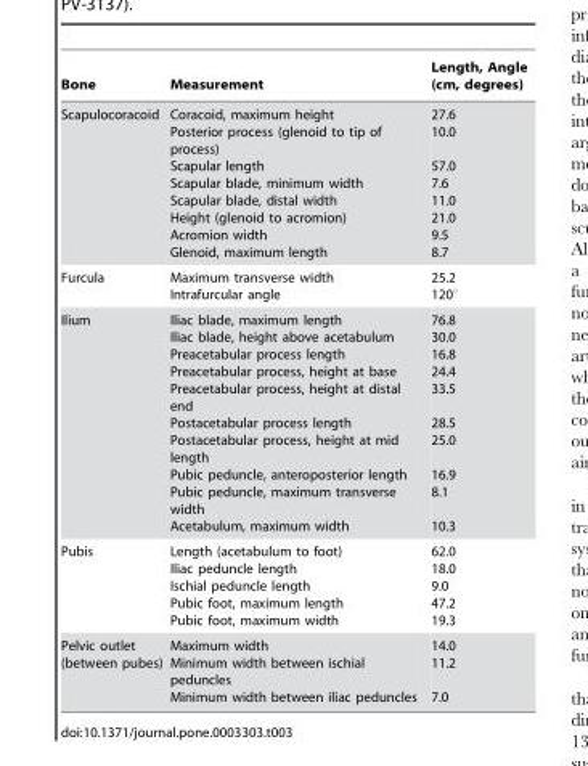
<table><thead><tr><td>Bone</td><td>Measurement</td><td>Length, Angle (cm, degrees)</td></tr></thead><tbody><tr><td>Scapulocoracoid</td><td>Coracoid, maximum height Posterior process (glenoid to tip of process) Scapular length Scapular blade, minimum width Scapular blade, distal width Height (glenoid to acromion) Acromion width Glenoid, maximum length</td><td>27.6 10.0 57.0 7.6 11.0 21.0 9.5 8.7</td></tr><tr><td>Furcula</td><td>Maximum transverse width Intrafurcular angle</td><td>25.2 120°</td></tr><tr><td>Ilium</td><td>Iliac blade, maximum length Iliac blade, height above acetabulum Preacetabular process length Preacetabular process, height at base Preacetabular process, height at distal end Postacetabular process length Postacetabular process, height at mid length Pubic peduncle, anteroposterior length Pubic peduncle, maximum transverse width Acetabulum, maximum width</td><td>76.8 30.0 16.8 24.4 33.5 28.5 25.0 16.9 8.1 10.3</td></tr><tr><td>Pubis</td><td>Length (acetabulum to foot) Iliac peduncle length Ischial peduncle length Pubic foot, maximum length Pubic foot, maximum width</td><td>62.0 18.0 9.0 47.2 19.3</td></tr><tr><td>Pelvic outlet (between pubes)</td><td>Maximum width Minimum width between ischial peduncles Minimum width between iliac peduncles</td><td>14.0 11.2 7.0</td></tr></tbody></table>